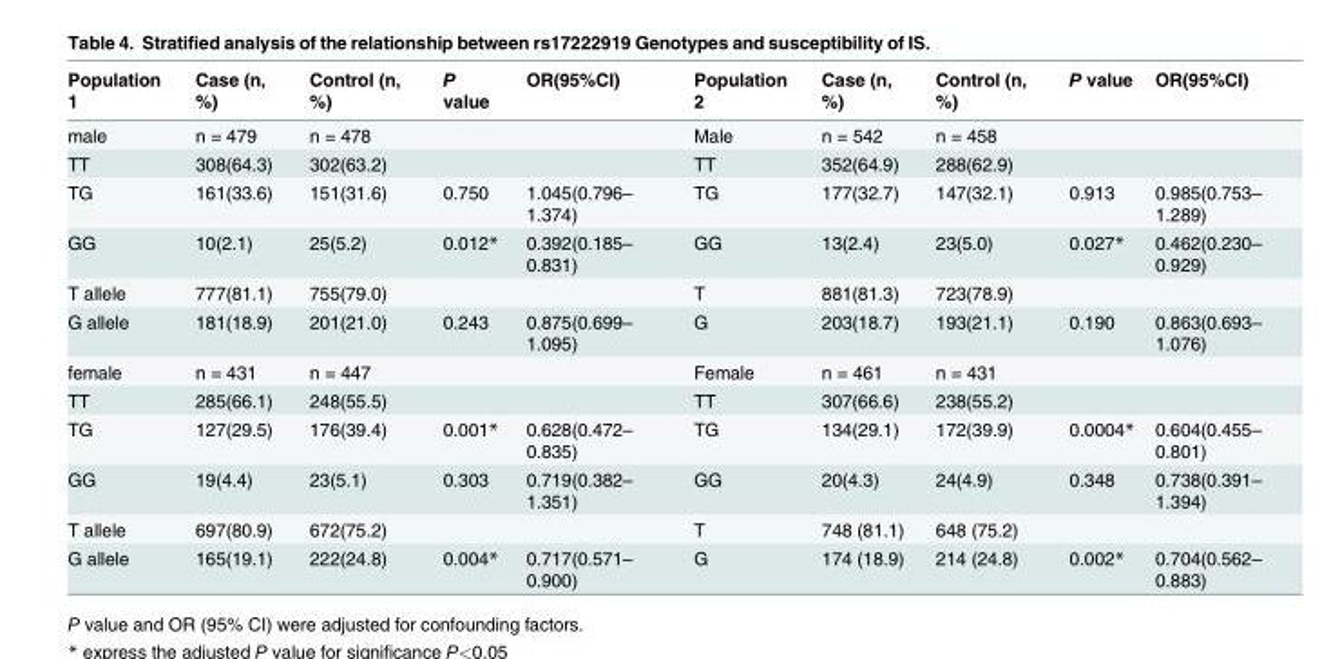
<table><thead><tr><td>Population 1</td><td>Case (n, %)</td><td>Control (n, %)</td><td>P value</td><td>OR(95%CI)</td><td>Population 2</td><td>Case (n, %)</td><td>Control (n, %)</td><td>P value</td><td>OR(95%CI)</td></tr></thead><tbody><tr><td>male</td><td>n = 479</td><td>n = 478</td><td></td><td></td><td>Male</td><td>n = 542</td><td>n = 458</td><td></td><td></td></tr><tr><td>TT</td><td>308(64.3)</td><td>302(63.2)</td><td></td><td></td><td>TT</td><td>352(64.9)</td><td>288(62.9)</td><td></td><td></td></tr><tr><td>TG</td><td>161(33.6)</td><td>151(31.6)</td><td>0.750</td><td>1.045(0.796– 1.374)</td><td>TG</td><td>177(32.7)</td><td>147(32.1)</td><td>0.913</td><td>0.985(0.753– 1.289)</td></tr><tr><td>GG</td><td>10(2.1)</td><td>25(5.2)</td><td>0.012*</td><td>0.392(0.185– 0.831)</td><td>GG</td><td>13(2.4)</td><td>23(5.0)</td><td>0.027*</td><td>0.462(0.230– 0.929)</td></tr><tr><td>T allele</td><td>777(81.1)</td><td>755(79.0)</td><td></td><td></td><td>T</td><td>881(81.3)</td><td>723(78.9)</td><td></td><td></td></tr><tr><td>G allele</td><td>181(18.9)</td><td>201(21.0)</td><td>0.243</td><td>0.875(0.699– 1.095)</td><td>G</td><td>203(18.7)</td><td>193(21.1)</td><td>0.190</td><td>0.863(0.693– 1.076)</td></tr><tr><td>female</td><td>n = 431</td><td>n = 447</td><td></td><td></td><td>Female</td><td>n = 461</td><td>n = 431</td><td></td><td></td></tr><tr><td>TT</td><td>285(66.1)</td><td>248(55.5)</td><td></td><td></td><td>TT</td><td>307(66.6)</td><td>238(55.2)</td><td></td><td></td></tr><tr><td>TG</td><td>127(29.5)</td><td>176(39.4)</td><td>0.001*</td><td>0.628(0.472– 0.835)</td><td>TG</td><td>134(29.1)</td><td>172(39.9)</td><td>0.0004*</td><td>0.604(0.455– 0.801)</td></tr><tr><td>GG</td><td>19(4.4)</td><td>23(5.1)</td><td>0.303</td><td>0.719(0.382– 1.351)</td><td>GG</td><td>20(4.3)</td><td>24(4.9)</td><td>0.348</td><td>0.738(0.391– 1.394)</td></tr><tr><td>T allele</td><td>697(80.9)</td><td>672(75.2)</td><td></td><td></td><td>T</td><td>748 (81.1)</td><td>648 (75.2)</td><td></td><td></td></tr><tr><td>G allele</td><td>165(19.1)</td><td>222(24.8)</td><td>0.004*</td><td>0.717(0.571– 0.900)</td><td>G</td><td>174 (18.9)</td><td>214 (24.8)</td><td>0.002*</td><td>0.704(0.562– 0.883)</td></tr></tbody></table>